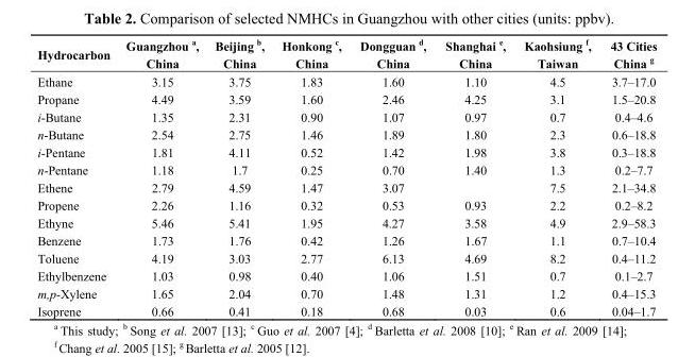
<table><thead><tr><td>Hydrocarbon</td><td>Guangzhou <sup>a</sup>, China</td><td>Beijing <sup>b</sup>, China</td><td>Honkong <sup>c</sup>, China</td><td>Dongguan <sup>d</sup>, China</td><td>Shanghai <sup>e</sup>, China</td><td>Kaohsiung <sup>f</sup>, Taiwan</td><td>43 Cities China <sup>g</sup></td></tr></thead><tbody><tr><td>Ethane</td><td>3.15</td><td>3.75</td><td>1.83</td><td>1.60</td><td>1.10</td><td>4.5</td><td>3.7–17.0</td></tr><tr><td>Propane</td><td>4.49</td><td>3.59</td><td>1.60</td><td>2.46</td><td>4.25</td><td>3.1</td><td>1.5–20.8</td></tr><tr><td>i-Butane</td><td>1.35</td><td>2.31</td><td>0.90</td><td>1.07</td><td>0.97</td><td>0.7</td><td>0.4–4.6</td></tr><tr><td>n-Butane</td><td>2.54</td><td>2.75</td><td>1.46</td><td>1.89</td><td>1.80</td><td>2.3</td><td>0.6–18.8</td></tr><tr><td>i-Pentane</td><td>1.81</td><td>4.11</td><td>0.52</td><td>1.42</td><td>1.98</td><td>3.8</td><td>0.3–18.8</td></tr><tr><td>n-Pentane</td><td>1.18</td><td>1.7</td><td>0.25</td><td>0.70</td><td>1.40</td><td>1.3</td><td>0.2–7.7</td></tr><tr><td>Ethene</td><td>2.79</td><td>4.59</td><td>1.47</td><td>3.07</td><td></td><td>7.5</td><td>2.1–34.8</td></tr><tr><td>Propene</td><td>2.26</td><td>1.16</td><td>0.32</td><td>0.53</td><td>0.93</td><td>2.2</td><td>0.2–8.2</td></tr><tr><td>Ethyne</td><td>5.46</td><td>5.41</td><td>1.95</td><td>4.27</td><td>3.58</td><td>4.9</td><td>2.9–58.3</td></tr><tr><td>Benzene</td><td>1.73</td><td>1.76</td><td>0.42</td><td>1.26</td><td>1.67</td><td>1.1</td><td>0.7–10.4</td></tr><tr><td>Toluene</td><td>4.19</td><td>3.03</td><td>2.77</td><td>6.13</td><td>4.69</td><td>8.2</td><td>0.4–11.2</td></tr><tr><td>Ethylbenzene</td><td>1.03</td><td>0.98</td><td>0.40</td><td>1.06</td><td>1.51</td><td>0.7</td><td>0.1–2.7</td></tr><tr><td>m,p-Xylene</td><td>1.65</td><td>2.04</td><td>0.70</td><td>1.48</td><td>1.31</td><td>1.2</td><td>0.4–15.3</td></tr><tr><td>Isoprene</td><td>0.66</td><td>0.41</td><td>0.18</td><td>0.68</td><td>0.03</td><td>0.6</td><td>0.04–1.7</td></tr></tbody></table>